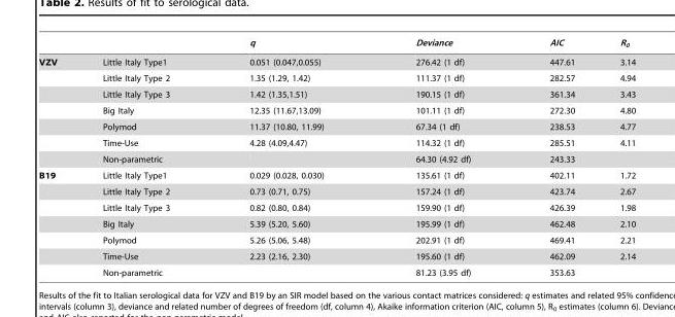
<table><thead><tr><td></td><td></td><td>q</td><td>Deviance</td><td>AIC</td><td>R<sub>0</sub></td></tr></thead><tbody><tr><td rowspan="7">VZV</td><td>Little Italy Type1</td><td>0.051 (0.047,0.055)</td><td>276.42 (1 df)</td><td>447.61</td><td>3.14</td></tr><tr><td>Little Italy Type 2</td><td>1.35 (1.29, 1.42)</td><td>111.37 (1 df)</td><td>282.57</td><td>4.94</td></tr><tr><td>Little Italy Type 3</td><td>1.42 (1.35,1.51)</td><td>190.15 (1 df)</td><td>361.34</td><td>3.43</td></tr><tr><td>Big Italy</td><td>12.35 (11.67,13.09)</td><td>101.11 (1 df)</td><td>272.30</td><td>4.80</td></tr><tr><td>Polymod</td><td>11.37 (10.80, 11.99)</td><td>67.34 (1 df)</td><td>238.53</td><td>4.77</td></tr><tr><td>Time-Use</td><td>4.28 (4.09,4.47)</td><td>114.32 (1 df)</td><td>285.51</td><td>4.11</td></tr><tr><td>Non-parametric</td><td></td><td>64.30 (4.92 df)</td><td>243.33</td><td></td></tr><tr><td rowspan="7">B19</td><td>Little Italy Type1</td><td>0.029 (0.028, 0.030)</td><td>135.61 (1 df)</td><td>402.11</td><td>1.72</td></tr><tr><td>Little Italy Type 2</td><td>0.73 (0.71, 0.75)</td><td>157.24 (1 df)</td><td>423.74</td><td>2.67</td></tr><tr><td>Little Italy Type 3</td><td>0.82 (0.80, 0.84)</td><td>159.90 (1 df)</td><td>426.39</td><td>1.98</td></tr><tr><td>Big Italy</td><td>5.39 (5.20, 5.60)</td><td>195.99 (1 df)</td><td>462.48</td><td>2.10</td></tr><tr><td>Polymod</td><td>5.26 (5.06, 5.48)</td><td>202.91 (1 df)</td><td>469.41</td><td>2.21</td></tr><tr><td>Time-Use</td><td>2.23 (2.16, 2.30)</td><td>195.60 (1 df)</td><td>462.09</td><td>2.14</td></tr><tr><td>Non-parametric</td><td></td><td>81.23 (3.95 df)</td><td>353.63</td><td></td></tr></tbody></table>